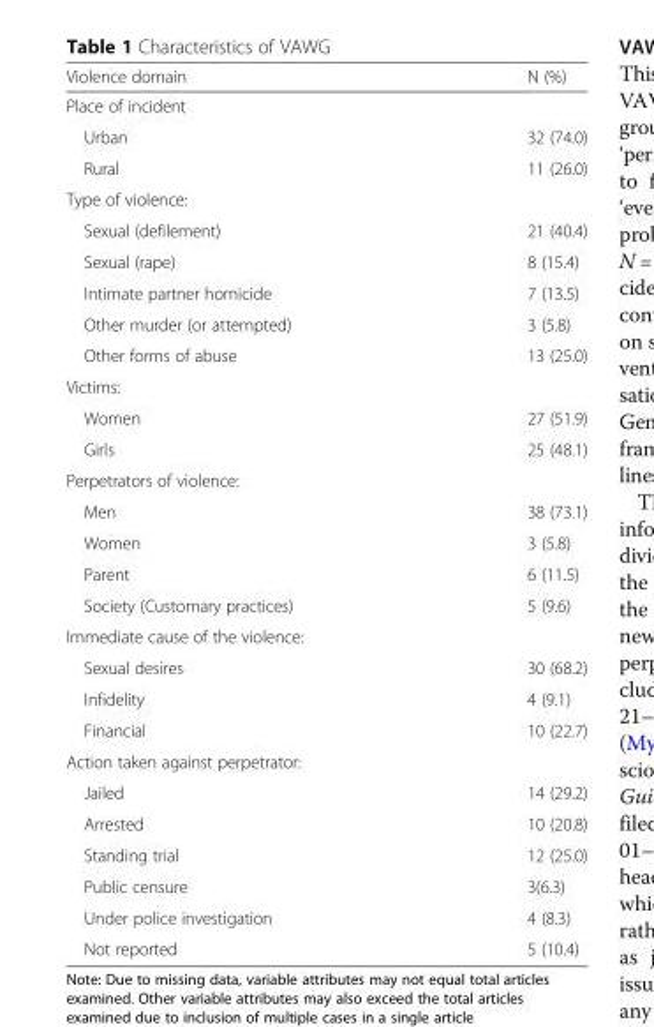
<table><thead><tr><td>Violence domain</td><td>N (%)</td></tr></thead><tbody><tr><td colspan="2">Place of incident</td></tr><tr><td>Urban</td><td>32 (74.0)</td></tr><tr><td>Rural</td><td>11 (26.0)</td></tr><tr><td colspan="2">Type of violence:</td></tr><tr><td>Sexual (defilement)</td><td>21 (40.4)</td></tr><tr><td>Sexual (rape)</td><td>8 (15.4)</td></tr><tr><td>Intimate partner homicide</td><td>7 (13.5)</td></tr><tr><td>Other murder (or attempted)</td><td>3 (5.8)</td></tr><tr><td>Other forms of abuse</td><td>13 (25.0)</td></tr><tr><td colspan="2">Victims:</td></tr><tr><td>Women</td><td>27 (51.9)</td></tr><tr><td>Girls</td><td>25 (48.1)</td></tr><tr><td colspan="2">Perpetrators of violence:</td></tr><tr><td>Men</td><td>38 (73.1)</td></tr><tr><td>Women</td><td>3 (5.8)</td></tr><tr><td>Parent</td><td>6 (11.5)</td></tr><tr><td>Society (Customary practices)</td><td>5 (9.6)</td></tr><tr><td colspan="2">Immediate cause of the violence:</td></tr><tr><td>Sexual desires</td><td>30 (68.2)</td></tr><tr><td>Infidelity</td><td>4 (9.1)</td></tr><tr><td>Financial</td><td>10 (22.7)</td></tr><tr><td colspan="2">Action taken against perpetrator:</td></tr><tr><td>Jailed</td><td>14 (29.2)</td></tr><tr><td>Arrested</td><td>10 (20.8)</td></tr><tr><td>Standing trial</td><td>12 (25.0)</td></tr><tr><td>Public censure</td><td>3(6.3)</td></tr><tr><td>Under police investigation</td><td>4 (8.3)</td></tr><tr><td>Not reported</td><td>5 (10.4)</td></tr></tbody></table>